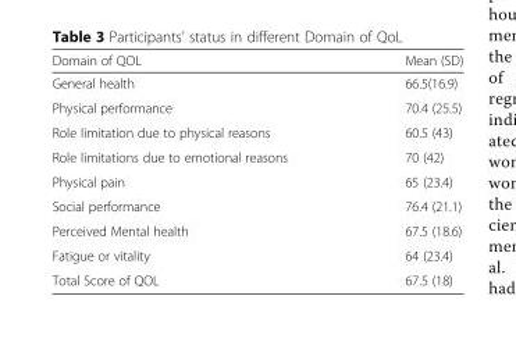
<table><thead><tr><td>Domain of QOL</td><td>Mean (SD)</td></tr></thead><tbody><tr><td>General health</td><td>66.5(16.9)</td></tr><tr><td>Physical performance</td><td>70.4 (25.5)</td></tr><tr><td>Role limitation due to physical reasons</td><td>60.5 (43)</td></tr><tr><td>Role limitations due to emotional reasons</td><td>70 (42)</td></tr><tr><td>Physical pain</td><td>65 (23.4)</td></tr><tr><td>Social performance</td><td>76.4 (21.1)</td></tr><tr><td>Perceived Mental health</td><td>67.5 (18.6)</td></tr><tr><td>Fatigue or vitality</td><td>64 (23.4)</td></tr><tr><td>Total Score of QOL</td><td>67.5 (18)</td></tr></tbody></table>